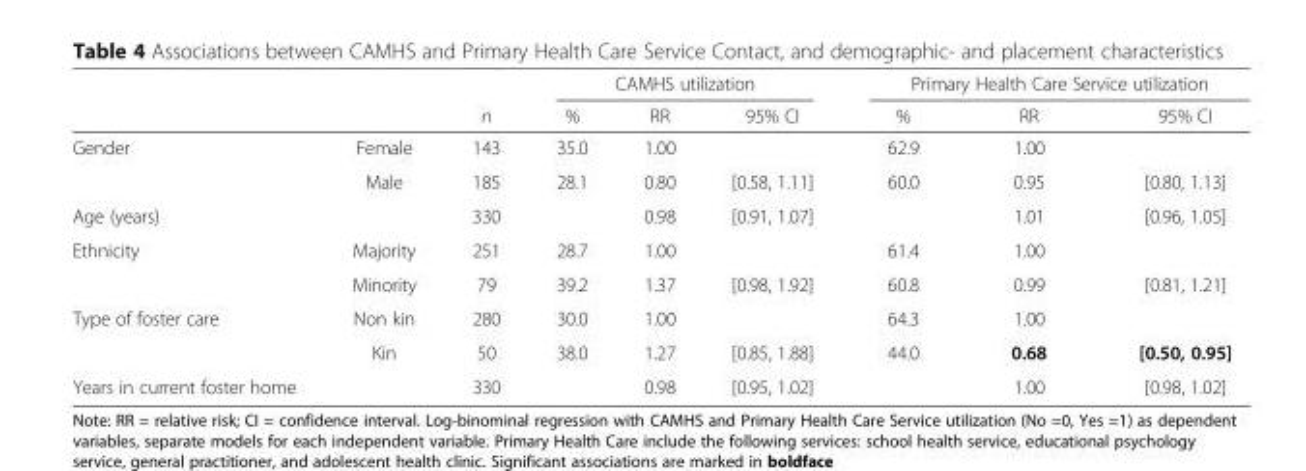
<table><thead><tr><td rowspan="2"></td><td rowspan="2"></td><td rowspan="2">n</td><td colspan="3">CAMHS utilization</td><td colspan="3">Primary Health Care Service utilization</td></tr><tr><td>%</td><td>RR</td><td>95% CI</td><td>%</td><td>RR</td><td>95% CI</td></tr></thead><tbody><tr><td rowspan="2">Gender</td><td>Female</td><td>143</td><td>35.0</td><td>1.00</td><td></td><td>62.9</td><td>1.00</td><td></td></tr><tr><td>Male</td><td>185</td><td>28.1</td><td>0.80</td><td>[0.58, 1.11]</td><td>60.0</td><td>0.95</td><td>[0.80, 1.13]</td></tr><tr><td>Age (years)</td><td></td><td>330</td><td></td><td>0.98</td><td>[0.91, 1.07]</td><td></td><td>1.01</td><td>[0.96, 1.05]</td></tr><tr><td rowspan="2">Ethnicity</td><td>Majority</td><td>251</td><td>28.7</td><td>1.00</td><td></td><td>61.4</td><td>1.00</td><td></td></tr><tr><td>Minority</td><td>79</td><td>39.2</td><td>1.37</td><td>[0.98, 1.92]</td><td>60.8</td><td>0.99</td><td>[0.81, 1.21]</td></tr><tr><td rowspan="2">Type of foster care</td><td>Non kin</td><td>280</td><td>30.0</td><td>1.00</td><td></td><td>64.3</td><td>1.00</td><td></td></tr><tr><td>Kin</td><td>50</td><td>38.0</td><td>1.27</td><td>[0.85, 1.88]</td><td>44.0</td><td>0.68</td><td>[0.50, 0.95]</td></tr><tr><td>Years in current foster home</td><td></td><td>330</td><td></td><td>0.98</td><td>[0.95, 1.02]</td><td></td><td>1.00</td><td>[0.98, 1.02]</td></tr></tbody></table>